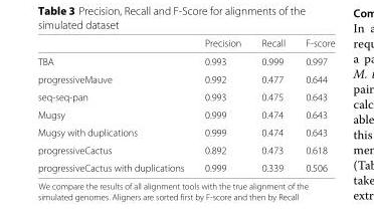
<table><thead><tr><td></td><td>Precision</td><td>Recall</td><td>F-score</td></tr></thead><tbody><tr><td>TBA</td><td>0.993</td><td>0.999</td><td>0.997</td></tr><tr><td>progressiveMauve</td><td>0.992</td><td>0.477</td><td>0.644</td></tr><tr><td>seq-seq-pan</td><td>0.993</td><td>0.475</td><td>0.643</td></tr><tr><td>Mugsy</td><td>0.999</td><td>0.474</td><td>0.643</td></tr><tr><td>Mugsy with duplications</td><td>0.999</td><td>0.474</td><td>0.643</td></tr><tr><td>progressiveCactus</td><td>0.892</td><td>0.473</td><td>0.618</td></tr><tr><td>progressiveCactus with duplications</td><td>0.999</td><td>0.339</td><td>0.506</td></tr></tbody></table>